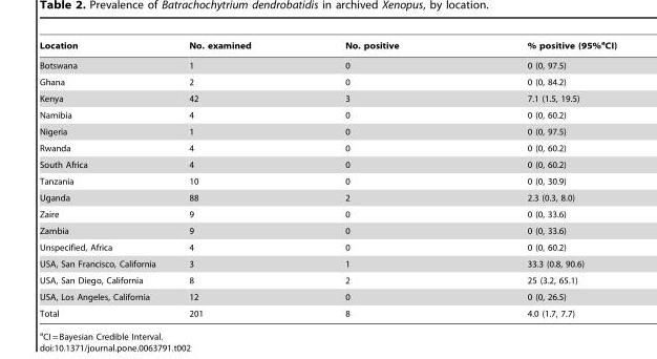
<table><thead><tr><td>Location</td><td>No. examined</td><td>No. positive</td><td>% positive (95%<sup>a</sup>CI)</td></tr></thead><tbody><tr><td>Botswana</td><td>1</td><td>0</td><td>0 (0, 97.5)</td></tr><tr><td>Ghana</td><td>2</td><td>0</td><td>0 (0, 84.2)</td></tr><tr><td>Kenya</td><td>42</td><td>3</td><td>7.1 (1.5, 19.5)</td></tr><tr><td>Namibia</td><td>4</td><td>0</td><td>0 (0, 60.2)</td></tr><tr><td>Nigeria</td><td>1</td><td>0</td><td>0 (0, 97.5)</td></tr><tr><td>Rwanda</td><td>4</td><td>0</td><td>0 (0, 60.2)</td></tr><tr><td>South Africa</td><td>4</td><td>0</td><td>0 (0, 60.2)</td></tr><tr><td>Tanzania</td><td>10</td><td>0</td><td>0 (0, 30.9)</td></tr><tr><td>Uganda</td><td>88</td><td>2</td><td>2.3 (0.3, 8.0)</td></tr><tr><td>Zaire</td><td>9</td><td>0</td><td>0 (0, 33.6)</td></tr><tr><td>Zambia</td><td>9</td><td>0</td><td>0 (0, 33.6)</td></tr><tr><td>Unspecified, Africa</td><td>4</td><td>0</td><td>0 (0, 60.2)</td></tr><tr><td>USA, San Francisco, California</td><td>3</td><td>1</td><td>33.3 (0.8, 90.6)</td></tr><tr><td>USA, San Diego, California</td><td>8</td><td>2</td><td>25 (3.2, 65.1)</td></tr><tr><td>USA, Los Angeles, California</td><td>12</td><td>0</td><td>0 (0, 26.5)</td></tr><tr><td>Total</td><td>201</td><td>8</td><td>4.0 (1.7, 7.7)</td></tr></tbody></table>